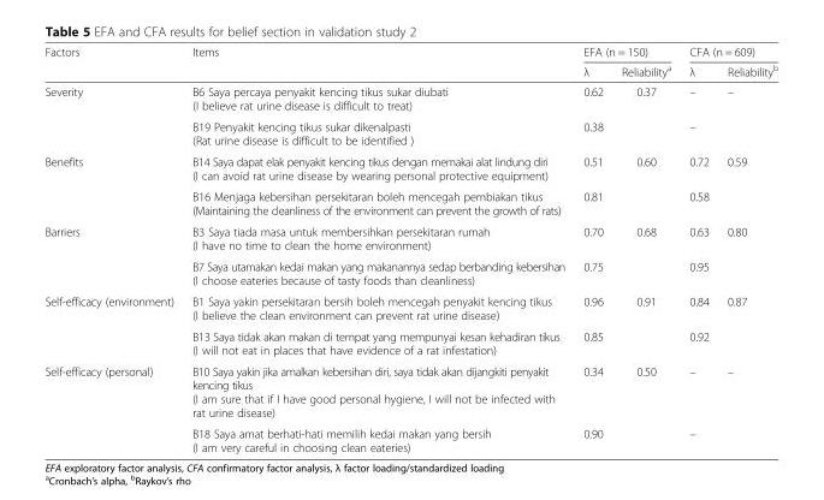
<table><thead><tr><td rowspan="2">Factors</td><td rowspan="2">Items</td><td colspan="2">EFA (n = 150)</td><td colspan="2">CFA (n = 609)</td></tr><tr><td>λ</td><td>Reliability<sup>a</sup></td><td>λ</td><td>Reliability<sup>b</sup></td></tr></thead><tbody><tr><td rowspan="2">Severity</td><td>B6 Saya percaya penyakit kencing tikus sukar diubati (I believe rat urine disease is difficult to treat)</td><td>0.62</td><td>0.37</td><td>–</td><td>–</td></tr><tr><td>B19 Penyakit kencing tikus sukar dikenalpasti (Rat urine disease is difficult to be identified )</td><td>0.38</td><td></td><td>–</td><td></td></tr><tr><td rowspan="2">Benefits</td><td>B14 Saya dapat elak penyakit kencing tikus dengan memakai alat lindung diri (I can avoid rat urine disease by wearing personal protective equipment)</td><td>0.51</td><td>0.60</td><td>0.72</td><td>0.59</td></tr><tr><td>B16 Menjaga kebersihan persekitaran boleh mencegah pembiakan tikus (Maintaining the cleanliness of the environment can prevent the growth of rats)</td><td>0.81</td><td></td><td>0.58</td><td></td></tr><tr><td rowspan="2">Barriers</td><td>B3 Saya tiada masa untuk membersihkan persekitaran rumah (I have no time to clean the home environment)</td><td>0.70</td><td>0.68</td><td>0.63</td><td>0.80</td></tr><tr><td>B7 Saya utamakan kedai makan yang makanannya sedap berbanding kebersihan (I choose eateries because of tasty foods than cleanliness)</td><td>0.75</td><td></td><td>0.95</td><td></td></tr><tr><td rowspan="2">Self-efficacy (environment)</td><td>B1 Saya yakin persekitaran bersih boleh mencegah penyakit kencing tikus (I believe the clean environment can prevent rat urine disease)</td><td>0.96</td><td>0.91</td><td>0.84</td><td>0.87</td></tr><tr><td>B13 Saya tidak akan makan di tempat yang mempunyai kesan kehadiran tikus (I will not eat in places that have evidence of a rat infestation)</td><td>0.85</td><td></td><td>0.92</td><td></td></tr><tr><td rowspan="2">Self-efficacy (personal)</td><td>B10 Saya yakin jika amalkan kebersihan diri, saya tidak akan dijangkiti penyakit kencing tikus (I am sure that if I have good personal hygiene, I will not be infected with rat urine disease)</td><td>0.34</td><td>0.50</td><td>–</td><td>–</td></tr><tr><td>B18 Saya amat berhati-hati memilih kedai makan yang bersih (I am very careful in choosing clean eateries)</td><td>0.90</td><td></td><td>–</td><td></td></tr></tbody></table>